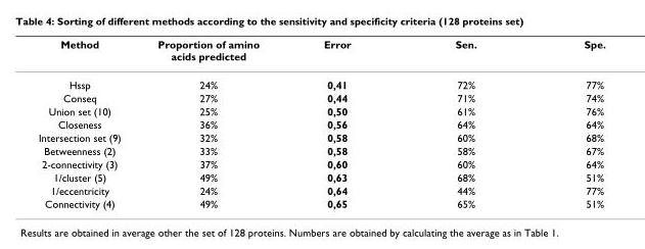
<table><thead><tr><td>Method</td><td>Proportion of amino acids predicted</td><td>Error</td><td>Sen.</td><td>Spe.</td></tr></thead><tbody><tr><td>Hssp</td><td>24%</td><td>0,41</td><td>72%</td><td>77%</td></tr><tr><td>Conseq</td><td>27%</td><td>0,44</td><td>71%</td><td>74%</td></tr><tr><td>Union set (10)</td><td>25%</td><td>0,50</td><td>61%</td><td>76%</td></tr><tr><td>Closeness</td><td>36%</td><td>0,56</td><td>64%</td><td>64%</td></tr><tr><td>Intersection set (9)</td><td>32%</td><td>0,58</td><td>60%</td><td>68%</td></tr><tr><td>Betweenness (2)</td><td>33%</td><td>0,58</td><td>58%</td><td>67%</td></tr><tr><td>2-connectivity (3)</td><td>37%</td><td>0,60</td><td>60%</td><td>64%</td></tr><tr><td>1/cluster (5)</td><td>49%</td><td>0,63</td><td>68%</td><td>51%</td></tr><tr><td>1/eccentricity</td><td>24%</td><td>0,64</td><td>44%</td><td>77%</td></tr><tr><td>Connectivity (4)</td><td>49%</td><td>0,65</td><td>65%</td><td>51%</td></tr></tbody></table>